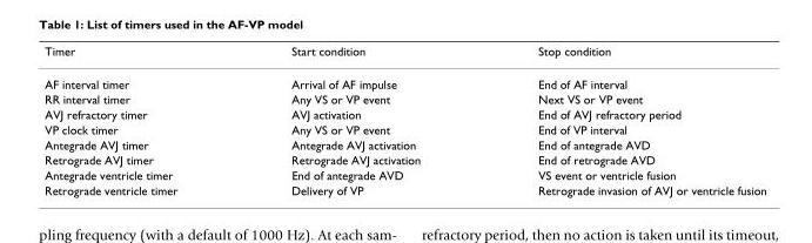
<table><thead><tr><td>Timer</td><td>Start condition</td><td>Stop condition</td></tr></thead><tbody><tr><td>AF interval timer</td><td>Arrival of AF impulse</td><td>End of AF interval</td></tr><tr><td>RR interval timer</td><td>Any VS or VP event</td><td>Next VS or VP event</td></tr><tr><td>AVJ refractory timer</td><td>AVJ activation</td><td>End of AVJ refractory period</td></tr><tr><td>VP clock timer</td><td>Any VS or VP event</td><td>End of VP interval</td></tr><tr><td>Antegrade AVJ timer</td><td>Antegrade AVJ activation</td><td>End of antegrade AVD</td></tr><tr><td>Retrograde AVJ timer</td><td>Retrograde AVJ activation</td><td>End of retrograde AVD</td></tr><tr><td>Antegrade ventricle timer</td><td>End of antegrade AVD</td><td>VS event or ventricle fusion</td></tr><tr><td>Retrograde ventricle timer</td><td>Delivery of VP</td><td>Retrograde invasion of AVJ or ventricle fusion</td></tr></tbody></table>